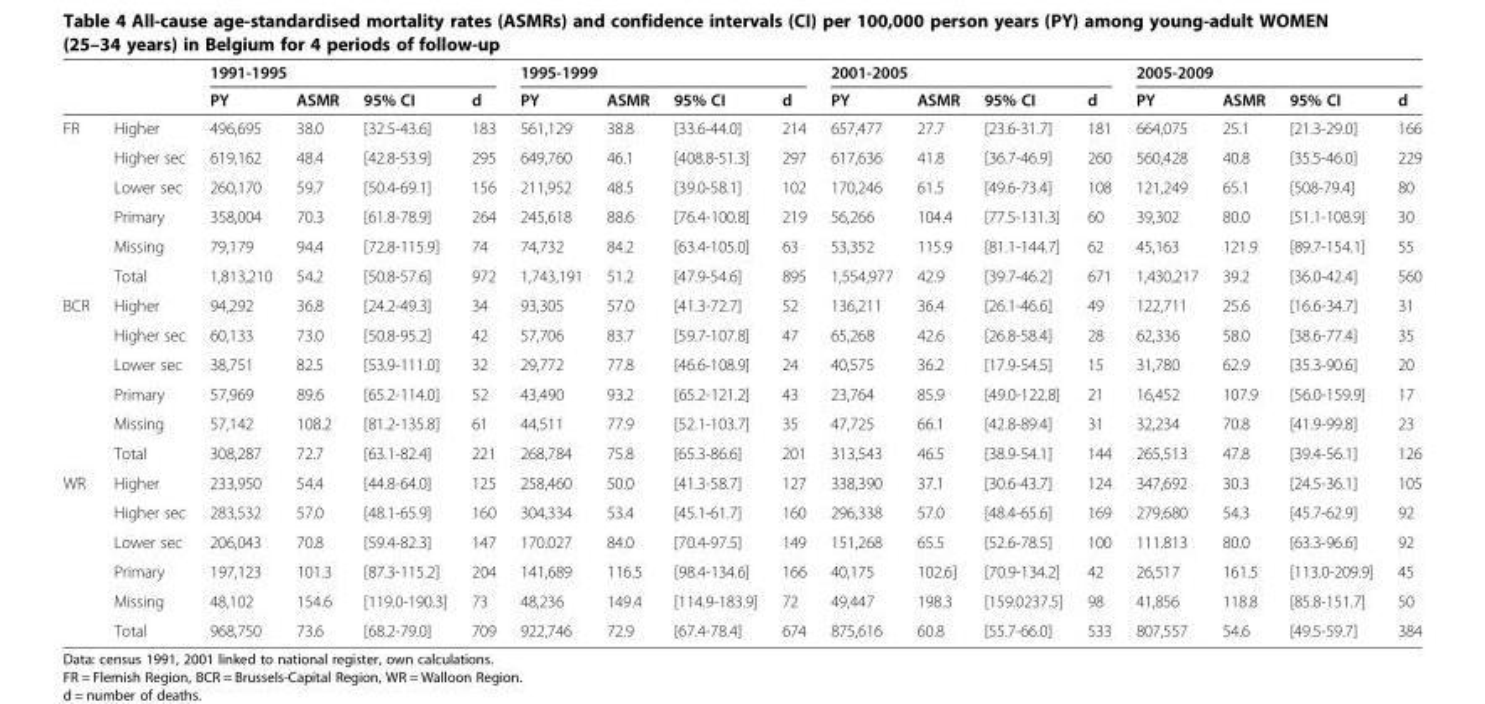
<table><thead><tr><td rowspan="2"></td><td rowspan="2"></td><td colspan="4">1991-1995</td><td colspan="4">1995-1999</td><td colspan="4">2001-2005</td><td colspan="4">2005-2009</td></tr><tr><td>PY</td><td>ASMR</td><td>95% CI</td><td>d</td><td>PY</td><td>ASMR</td><td>95% CI</td><td>d</td><td>PY</td><td>ASMR</td><td>95% CI</td><td>d</td><td>PY</td><td>ASMR</td><td>95% CI</td><td>d</td></tr></thead><tbody><tr><td rowspan="6">FR</td><td>Higher</td><td>496,695</td><td>38.0</td><td>[32.5-43.6]</td><td>183</td><td>561,129</td><td>38.8</td><td>[33.6-44.0]</td><td>214</td><td>657,477</td><td>27.7</td><td>[23.6-31.7]</td><td>181</td><td>664,075</td><td>25.1</td><td>[21.3-29.0]</td><td>166</td></tr><tr><td>Higher sec</td><td>619,162</td><td>48.4</td><td>[42.8-53.9]</td><td>295</td><td>649,760</td><td>46.1</td><td>[408.8-51.3]</td><td>297</td><td>617,636</td><td>41.8</td><td>[36.7-46.9]</td><td>260</td><td>560,428</td><td>40.8</td><td>[35.5-46.0]</td><td>229</td></tr><tr><td>Lower sec</td><td>260,170</td><td>59.7</td><td>[50.4-69.1]</td><td>156</td><td>211,952</td><td>48.5</td><td>[39.0-58.1]</td><td>102</td><td>170,246</td><td>61.5</td><td>[49.6-73.4]</td><td>108</td><td>121,249</td><td>65.1</td><td>[508-79.4]</td><td>80</td></tr><tr><td>Primary</td><td>358,004</td><td>70.3</td><td>[61.8-78.9]</td><td>264</td><td>245,618</td><td>88.6</td><td>[76.4-100.8]</td><td>219</td><td>56,266</td><td>104.4</td><td>[77.5-131.3]</td><td>60</td><td>39,302</td><td>80.0</td><td>[51.1-108.9]</td><td>30</td></tr><tr><td>Missing</td><td>79,179</td><td>94.4</td><td>[72.8-115.9]</td><td>74</td><td>74,732</td><td>84.2</td><td>[63.4-105.0]</td><td>63</td><td>53,352</td><td>115.9</td><td>[81.1-144.7]</td><td>62</td><td>45,163</td><td>121.9</td><td>[89.7-154.1]</td><td>55</td></tr><tr><td>Total</td><td>1,813,210</td><td>54.2</td><td>[50.8-57.6]</td><td>972</td><td>1,743,191</td><td>51.2</td><td>[47.9-54.6]</td><td>895</td><td>1,554,977</td><td>42.9</td><td>[39.7-46.2]</td><td>671</td><td>1,430,217</td><td>39.2</td><td>[36.0-42.4]</td><td>560</td></tr><tr><td rowspan="6">BCR</td><td>Higher</td><td>94,292</td><td>36.8</td><td>[24.2-49.3]</td><td>34</td><td>93,305</td><td>57.0</td><td>[41.3-72.7]</td><td>52</td><td>136,211</td><td>36.4</td><td>[26.1-46.6]</td><td>49</td><td>122,711</td><td>25.6</td><td>[16.6-34.7]</td><td>31</td></tr><tr><td>Higher sec</td><td>60,133</td><td>73.0</td><td>[50.8-95.2]</td><td>42</td><td>57,706</td><td>83.7</td><td>[59.7-107.8]</td><td>47</td><td>65,268</td><td>42.6</td><td>[26.8-58.4]</td><td>28</td><td>62,336</td><td>58.0</td><td>[38.6-77.4]</td><td>35</td></tr><tr><td>Lower sec</td><td>38,751</td><td>82.5</td><td>[53.9-111.0]</td><td>32</td><td>29,772</td><td>77.8</td><td>[46.6-108.9]</td><td>24</td><td>40,575</td><td>36.2</td><td>[17.9-54.5]</td><td>15</td><td>31,780</td><td>62.9</td><td>[35.3-90.6]</td><td>20</td></tr><tr><td>Primary</td><td>57,969</td><td>89.6</td><td>[65.2-114.0]</td><td>52</td><td>43,490</td><td>93.2</td><td>[65.2-121.2]</td><td>43</td><td>23,764</td><td>85.9</td><td>[49.0-122.8]</td><td>21</td><td>16,452</td><td>107.9</td><td>[56.0-159.9]</td><td>17</td></tr><tr><td>Missing</td><td>57,142</td><td>108.2</td><td>[81.2-135.8]</td><td>61</td><td>44,511</td><td>77.9</td><td>[52.1-103.7]</td><td>35</td><td>47,725</td><td>66.1</td><td>[42.8-89.4]</td><td>31</td><td>32,234</td><td>70.8</td><td>[41.9-99.8]</td><td>23</td></tr><tr><td>Total</td><td>308,287</td><td>72.7</td><td>[63.1-82.4]</td><td>221</td><td>268,784</td><td>75.8</td><td>[65.3-86.6]</td><td>201</td><td>313,543</td><td>46.5</td><td>[38.9-54.1]</td><td>144</td><td>265,513</td><td>47.8</td><td>[39.4-56.1]</td><td>126</td></tr><tr><td rowspan="6">WR</td><td>Higher</td><td>233,950</td><td>54.4</td><td>[44.8-64.0]</td><td>125</td><td>258,460</td><td>50.0</td><td>[41.3-58.7]</td><td>127</td><td>338,390</td><td>37.1</td><td>[30.6-43.7]</td><td>124</td><td>347,692</td><td>30.3</td><td>[24.5-36.1]</td><td>105</td></tr><tr><td>Higher sec</td><td>283,532</td><td>57.0</td><td>[48.1-65.9]</td><td>160</td><td>304,334</td><td>53.4</td><td>[45.1-61.7]</td><td>160</td><td>296,338</td><td>57.0</td><td>[48.4-65.6]</td><td>169</td><td>279,680</td><td>54.3</td><td>[45.7-62.9]</td><td>92</td></tr><tr><td>Lower sec</td><td>206,043</td><td>70.8</td><td>[59.4-82.3]</td><td>147</td><td>170.027</td><td>84.0</td><td>[70.4-97.5]</td><td>149</td><td>151,268</td><td>65.5</td><td>[52.6-78.5]</td><td>100</td><td>111.813</td><td>80.0</td><td>[63.3-96.6]</td><td>92</td></tr><tr><td>Primary</td><td>197,123</td><td>101.3</td><td>[87.3-115.2]</td><td>204</td><td>141,689</td><td>116.5</td><td>[98.4-134.6]</td><td>166</td><td>40,175</td><td>102.6]</td><td>[70.9-134.2]</td><td>42</td><td>26,517</td><td>161.5</td><td>[113.0-209.9]</td><td>45</td></tr><tr><td>Missing</td><td>48,102</td><td>154.6</td><td>[119.0-190.3]</td><td>73</td><td>48,236</td><td>149.4</td><td>[114.9-183.9]</td><td>72</td><td>49,447</td><td>198.3</td><td>[159.0237.5]</td><td>98</td><td>41,856</td><td>118.8</td><td>[85.8-151.7]</td><td>50</td></tr><tr><td>Total</td><td>968,750</td><td>73.6</td><td>[68.2-79.0]</td><td>709</td><td>922,746</td><td>72.9</td><td>[67.4-78.4]</td><td>674</td><td>875,616</td><td>60.8</td><td>[55.7-66.0]</td><td>533</td><td>807,557</td><td>54.6</td><td>[49.5-59.7]</td><td>384</td></tr></tbody></table>